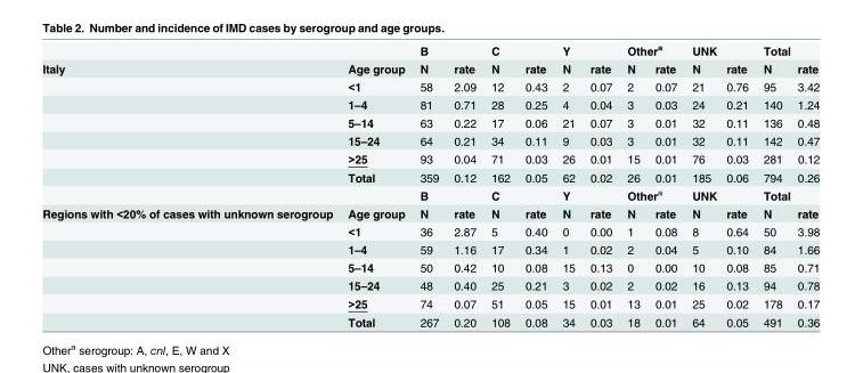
<table><thead><tr><td rowspan="2">Italy</td><td rowspan="2">Age group</td><td colspan="2">B</td><td colspan="2">C</td><td colspan="2">Y</td><td colspan="2">Other<sup>a</sup></td><td colspan="2">UNK</td><td colspan="2">Total</td></tr><tr><td>N</td><td>rate</td><td>N</td><td>rate</td><td>N</td><td>rate</td><td>N</td><td>rate</td><td>N</td><td>rate</td><td>N</td><td>rate</td></tr></thead><tbody><tr><td></td><td>&lt;1</td><td>58</td><td>2.09</td><td>12</td><td>0.43</td><td>2</td><td>0.07</td><td>2</td><td>0.07</td><td>21</td><td>0.76</td><td>95</td><td>3.42</td></tr><tr><td></td><td>1–4</td><td>81</td><td>0.71</td><td>28</td><td>0.25</td><td>4</td><td>0.04</td><td>3</td><td>0.03</td><td>24</td><td>0.21</td><td>140</td><td>1.24</td></tr><tr><td></td><td>5–14</td><td>63</td><td>0.22</td><td>17</td><td>0.06</td><td>21</td><td>0.07</td><td>3</td><td>0.01</td><td>32</td><td>0.11</td><td>136</td><td>0.48</td></tr><tr><td></td><td>15–24</td><td>64</td><td>0.21</td><td>34</td><td>0.11</td><td>9</td><td>0.03</td><td>3</td><td>0.01</td><td>32</td><td>0.11</td><td>142</td><td>0.47</td></tr><tr><td></td><td>&gt;25</td><td>93</td><td>0.04</td><td>71</td><td>0.03</td><td>26</td><td>0.01</td><td>15</td><td>0.01</td><td>76</td><td>0.03</td><td>281</td><td>0.12</td></tr><tr><td></td><td>Total</td><td>359</td><td>0.12</td><td>162</td><td>0.05</td><td>62</td><td>0.02</td><td>26</td><td>0.01</td><td>185</td><td>0.06</td><td>794</td><td>0.26</td></tr><tr><td colspan="2"></td><td colspan="2">B</td><td colspan="2">C</td><td colspan="2">Y</td><td colspan="2">Other<sup>a</sup></td><td colspan="2">UNK</td><td colspan="2">Total</td></tr><tr><td rowspan="7">Regions with &lt;20% of cases with unknown serogroup</td><td>Age group</td><td>N</td><td>rate</td><td>N</td><td>rate</td><td>N</td><td>rate</td><td>N</td><td>rate</td><td>N</td><td>rate</td><td>N</td><td>rate</td></tr><tr><td>&lt;1</td><td>36</td><td>2.87</td><td>5</td><td>0.40</td><td>0</td><td>0.00</td><td>1</td><td>0.08</td><td>8</td><td>0.64</td><td>50</td><td>3.98</td></tr><tr><td>1–4</td><td>59</td><td>1.16</td><td>17</td><td>0.34</td><td>1</td><td>0.02</td><td>2</td><td>0.04</td><td>5</td><td>0.10</td><td>84</td><td>1.66</td></tr><tr><td>5–14</td><td>50</td><td>0.42</td><td>10</td><td>0.08</td><td>15</td><td>0.13</td><td>0</td><td>0.00</td><td>10</td><td>0.08</td><td>85</td><td>0.71</td></tr><tr><td>15–24</td><td>48</td><td>0.40</td><td>25</td><td>0.21</td><td>3</td><td>0.02</td><td>2</td><td>0.02</td><td>16</td><td>0.13</td><td>94</td><td>0.78</td></tr><tr><td>&gt;25</td><td>74</td><td>0.07</td><td>51</td><td>0.05</td><td>15</td><td>0.01</td><td>13</td><td>0.01</td><td>25</td><td>0.02</td><td>178</td><td>0.17</td></tr><tr><td>Total</td><td>267</td><td>0.20</td><td>108</td><td>0.08</td><td>34</td><td>0.03</td><td>18</td><td>0.01</td><td>64</td><td>0.05</td><td>491</td><td>0.36</td></tr></tbody></table>